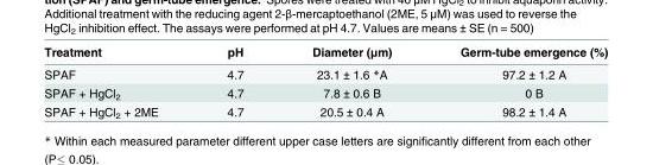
<table><thead><tr><td>Treatment</td><td>pH</td><td>Diameter (μm)</td><td>Germ-tube emergence (%)</td></tr></thead><tbody><tr><td>SPAF</td><td>4.7</td><td>23.1 ± 1.6 *A</td><td>97.2 ± 1.2 A</td></tr><tr><td>SPAF + HgCl<sub>2</sub></td><td>4.7</td><td>7.8 ± 0.6 B</td><td>0 B</td></tr><tr><td>SPAF + HgCl<sub>2</sub> + 2ME</td><td>4.7</td><td>20.5 ± 0.4 A</td><td>98.2 ± 1.4 A</td></tr></tbody></table>